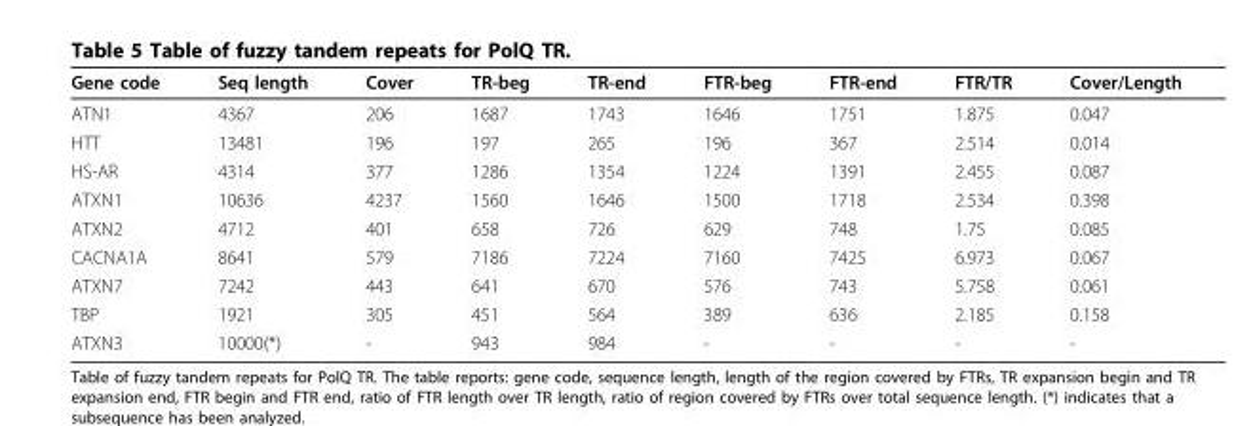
<table><thead><tr><td>Gene code</td><td>Seq length</td><td>Cover</td><td>TR-beg</td><td>TR-end</td><td>FTR-beg</td><td>FTR-end</td><td>FTR/TR</td><td>Cover/Length</td></tr></thead><tbody><tr><td>ATN1</td><td>4367</td><td>206</td><td>1687</td><td>1743</td><td>1646</td><td>1751</td><td>1.875</td><td>0.047</td></tr><tr><td>HTT</td><td>13481</td><td>196</td><td>197</td><td>265</td><td>196</td><td>367</td><td>2.514</td><td>0.014</td></tr><tr><td>HS-AR</td><td>4314</td><td>377</td><td>1286</td><td>1354</td><td>1224</td><td>1391</td><td>2.455</td><td>0.087</td></tr><tr><td>ATXN1</td><td>10636</td><td>4237</td><td>1560</td><td>1646</td><td>1500</td><td>1718</td><td>2.534</td><td>0.398</td></tr><tr><td>ATXN2</td><td>4712</td><td>401</td><td>658</td><td>726</td><td>629</td><td>748</td><td>1.75</td><td>0.085</td></tr><tr><td>CACNA1A</td><td>8641</td><td>579</td><td>7186</td><td>7224</td><td>7160</td><td>7425</td><td>6.973</td><td>0.067</td></tr><tr><td>ATXN7</td><td>7242</td><td>443</td><td>641</td><td>670</td><td>576</td><td>743</td><td>5.758</td><td>0.061</td></tr><tr><td>TBP</td><td>1921</td><td>305</td><td>451</td><td>564</td><td>389</td><td>636</td><td>2.185</td><td>0.158</td></tr><tr><td>ATXN3</td><td>10000(*)</td><td>-</td><td>943</td><td>984</td><td>-</td><td>-</td><td>-</td><td>-</td></tr></tbody></table>